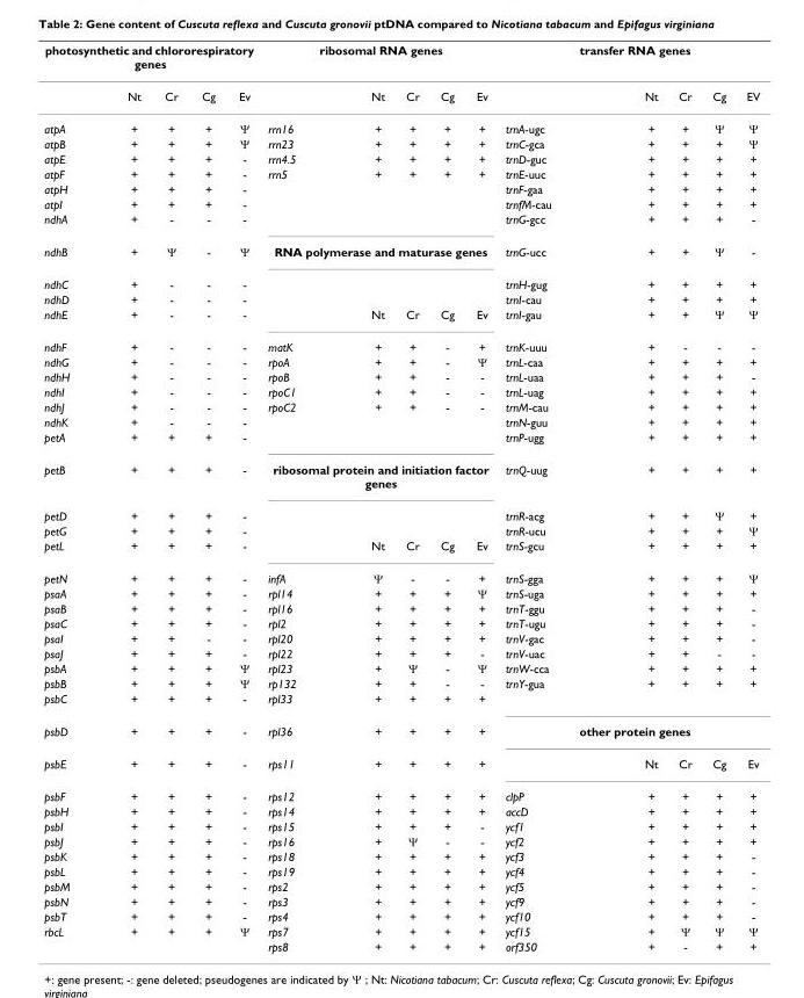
<table><thead><tr><td colspan="5">photosynthetic and chlororespiratory genes</td><td colspan="5">ribosomal RNA genes</td><td colspan="5">transfer RNA genes</td></tr><tr><td></td><td>Nt</td><td>Cr</td><td>Cg</td><td>Ev</td><td></td><td>Nt</td><td>Cr</td><td>Cg</td><td>Ev</td><td></td><td>Nt</td><td>Cr</td><td>Cg</td><td>EV</td></tr></thead><tbody><tr><td>atpA</td><td>+</td><td>+</td><td>+</td><td>Ψ</td><td>rrn16</td><td>+</td><td>+</td><td>+</td><td>+</td><td>trnA-ugc</td><td>+</td><td>+</td><td>Ψ</td><td>Ψ</td></tr><tr><td>atpB</td><td>+</td><td>+</td><td>+</td><td>Ψ</td><td>rrn23</td><td>+</td><td>+</td><td>+</td><td>+</td><td>trnC-gca</td><td>+</td><td>+</td><td>+</td><td>Ψ</td></tr><tr><td>atpE</td><td>+</td><td>+</td><td>+</td><td>-</td><td>rrn4.5</td><td>+</td><td>+</td><td>+</td><td>+</td><td>trnD-guc</td><td>+</td><td>+</td><td>+</td><td>+</td></tr><tr><td>atpF</td><td>+</td><td>+</td><td>+</td><td>-</td><td>rrn5</td><td>+</td><td>+</td><td>+</td><td>+</td><td>trnE-uuc</td><td>+</td><td>+</td><td>+</td><td>+</td></tr><tr><td>atpH</td><td>+</td><td>+</td><td>+</td><td>-</td><td></td><td></td><td></td><td></td><td></td><td>trnF-gaa</td><td>+</td><td>+</td><td>+</td><td>+</td></tr><tr><td>atpI</td><td>+</td><td>+</td><td>+</td><td>-</td><td></td><td></td><td></td><td></td><td></td><td>trnfM-cau</td><td>+</td><td>+</td><td>+</td><td>+</td></tr><tr><td>ndhA</td><td>+</td><td>-</td><td>-</td><td>-</td><td></td><td></td><td></td><td></td><td></td><td>trnG-gcc</td><td>+</td><td>+</td><td>+</td><td>-</td></tr><tr><td>ndhB</td><td>+</td><td>Ψ</td><td>-</td><td>Ψ</td><td colspan="5">RNA polymerase and maturase genes</td><td>trnG-ucc</td><td>+</td><td>+</td><td>Ψ</td><td>-</td></tr><tr><td>ndhC</td><td>+</td><td>-</td><td>-</td><td>-</td><td></td><td></td><td></td><td></td><td></td><td>trnH-gug</td><td>+</td><td>+</td><td>+</td><td>+</td></tr><tr><td>ndhD</td><td>+</td><td>-</td><td>-</td><td>-</td><td></td><td></td><td></td><td></td><td></td><td>trnI-cau</td><td>+</td><td>+</td><td>+</td><td>+</td></tr><tr><td>ndhE</td><td>+</td><td>-</td><td>-</td><td>-</td><td></td><td>Nt</td><td>Cr</td><td>Cg</td><td>Ev</td><td>trnI-gau</td><td>+</td><td>+</td><td>Ψ</td><td>Ψ</td></tr><tr><td>ndhF</td><td>+</td><td>-</td><td>-</td><td>-</td><td>matK</td><td>+</td><td>+</td><td>-</td><td>+</td><td>trnK-uuu</td><td>+</td><td>-</td><td>-</td><td>-</td></tr><tr><td>ndhG</td><td>+</td><td>-</td><td>-</td><td>-</td><td>rpoA</td><td>+</td><td>+</td><td>-</td><td>Ψ</td><td>trnL-caa</td><td>+</td><td>+</td><td>+</td><td>+</td></tr><tr><td>ndhH</td><td>+</td><td>-</td><td>-</td><td>-</td><td>rpoB</td><td>+</td><td>+</td><td>-</td><td>-</td><td>trnL-uaa</td><td>+</td><td>+</td><td>+</td><td>-</td></tr><tr><td>ndhI</td><td>+</td><td>-</td><td>-</td><td>-</td><td>rpoC1</td><td>+</td><td>+</td><td>-</td><td>-</td><td>trnL-uag</td><td>+</td><td>+</td><td>+</td><td>+</td></tr><tr><td>ndhJ</td><td>+</td><td>-</td><td>-</td><td>-</td><td>rpoC2</td><td>+</td><td>+</td><td>-</td><td>-</td><td>trnM-cau</td><td>+</td><td>+</td><td>+</td><td>+</td></tr><tr><td>ndhK</td><td>+</td><td>-</td><td>-</td><td>-</td><td></td><td></td><td></td><td></td><td></td><td>trnN-guu</td><td>+</td><td>+</td><td>+</td><td>+</td></tr><tr><td>petA</td><td>+</td><td>+</td><td>+</td><td>-</td><td></td><td></td><td></td><td></td><td></td><td>trnP-ugg</td><td>+</td><td>+</td><td>+</td><td>+</td></tr><tr><td>petB</td><td>+</td><td>+</td><td>+</td><td>-</td><td colspan="5">ribosomal protein and initiation factor genes</td><td>trnQ-uug</td><td>+</td><td>+</td><td>+</td><td>+</td></tr><tr><td>petD</td><td>+</td><td>+</td><td>+</td><td>-</td><td></td><td></td><td></td><td></td><td></td><td>trnR-acg</td><td>+</td><td>+</td><td>Ψ</td><td>+</td></tr><tr><td>petG</td><td>+</td><td>+</td><td>+</td><td>-</td><td></td><td></td><td></td><td></td><td></td><td>trnR-ucu</td><td>+</td><td>+</td><td>+</td><td>Ψ</td></tr><tr><td>petL</td><td>+</td><td>+</td><td>+</td><td>-</td><td></td><td>Nt</td><td>Cr</td><td>Cg</td><td>Ev</td><td>trnS-gcu</td><td>+</td><td>+</td><td>+</td><td>+</td></tr><tr><td>petN</td><td>+</td><td>+</td><td>+</td><td>-</td><td>infA</td><td>Ψ</td><td>-</td><td>-</td><td>+</td><td>trnS-gga</td><td>+</td><td>+</td><td>+</td><td>Ψ</td></tr><tr><td>psaA</td><td>+</td><td>+</td><td>+</td><td>-</td><td>rpl14</td><td>+</td><td>+</td><td>+</td><td>Ψ</td><td>trnS-uga</td><td>+</td><td>+</td><td>+</td><td>+</td></tr><tr><td>psaB</td><td>+</td><td>+</td><td>+</td><td>-</td><td>rpl16</td><td>+</td><td>+</td><td>+</td><td>+</td><td>trnT-ggu</td><td>+</td><td>+</td><td>+</td><td>-</td></tr><tr><td>psaC</td><td>+</td><td>+</td><td>+</td><td>-</td><td>rpl2</td><td>+</td><td>+</td><td>+</td><td>+</td><td>trnT-ugu</td><td>+</td><td>+</td><td>+</td><td>-</td></tr><tr><td>psaI</td><td>+</td><td>+</td><td>-</td><td>-</td><td>rpl20</td><td>+</td><td>+</td><td>+</td><td>+</td><td>trnV-gac</td><td>+</td><td>+</td><td>+</td><td>-</td></tr><tr><td>psaJ</td><td>+</td><td>+</td><td>+</td><td>-</td><td>rpl22</td><td>+</td><td>+</td><td>+</td><td>-</td><td>trnV-uac</td><td>+</td><td>+</td><td>-</td><td>-</td></tr><tr><td>psbA</td><td>+</td><td>+</td><td>+</td><td>Ψ</td><td>rpl23</td><td>+</td><td>Ψ</td><td>-</td><td>Ψ</td><td>trnW-cca</td><td>+</td><td>+</td><td>+</td><td>+</td></tr><tr><td>psbB</td><td>+</td><td>+</td><td>+</td><td>Ψ</td><td>rp132</td><td>+</td><td>+</td><td>-</td><td>-</td><td>trnY-gua</td><td>+</td><td>+</td><td>+</td><td>+</td></tr><tr><td>psbC</td><td>+</td><td>+</td><td>+</td><td>-</td><td>rpl33</td><td>+</td><td>+</td><td>+</td><td>+</td><td></td><td></td><td></td><td></td><td></td></tr><tr><td>psbD</td><td>+</td><td>+</td><td>+</td><td>-</td><td>rpl36</td><td>+</td><td>+</td><td>+</td><td>+</td><td colspan="5">other protein genes</td></tr><tr><td>psbE</td><td>+</td><td>+</td><td>+</td><td>-</td><td>rps11</td><td>+</td><td>+</td><td>+</td><td>+</td><td></td><td>Nt</td><td>Cr</td><td>Cg</td><td>Ev</td></tr><tr><td>psbF</td><td>+</td><td>+</td><td>+</td><td>-</td><td>rps12</td><td>+</td><td>+</td><td>+</td><td>+</td><td>clpP</td><td>+</td><td>+</td><td>+</td><td>+</td></tr><tr><td>psbH</td><td>+</td><td>+</td><td>+</td><td>-</td><td>rps14</td><td>+</td><td>+</td><td>+</td><td>+</td><td>accD</td><td>+</td><td>+</td><td>+</td><td>+</td></tr><tr><td>psbI</td><td>+</td><td>+</td><td>+</td><td>-</td><td>rps15</td><td>+</td><td>+</td><td>+</td><td>-</td><td>ycf1</td><td>+</td><td>+</td><td>+</td><td>+</td></tr><tr><td>psbJ</td><td>+</td><td>+</td><td>+</td><td>-</td><td>rps16</td><td>+</td><td>Ψ</td><td>-</td><td>-</td><td>ycf2</td><td>+</td><td>+</td><td>+</td><td>+</td></tr><tr><td>psbK</td><td>+</td><td>+</td><td>+</td><td>-</td><td>rps18</td><td>+</td><td>+</td><td>+</td><td>+</td><td>ycf3</td><td>+</td><td>+</td><td>+</td><td>-</td></tr><tr><td>psbL</td><td>+</td><td>+</td><td>+</td><td>-</td><td>rps19</td><td>+</td><td>+</td><td>+</td><td>+</td><td>ycf4</td><td>+</td><td>+</td><td>+</td><td>-</td></tr><tr><td>psbM</td><td>+</td><td>+</td><td>+</td><td>-</td><td>rps2</td><td>+</td><td>+</td><td>+</td><td>+</td><td>ycf5</td><td>+</td><td>+</td><td>+</td><td>-</td></tr><tr><td>psbN</td><td>+</td><td>+</td><td>+</td><td>-</td><td>rps3</td><td>+</td><td>+</td><td>+</td><td>+</td><td>ycf9</td><td>+</td><td>+</td><td>+</td><td>-</td></tr><tr><td>psbT</td><td>+</td><td>+</td><td>+</td><td>-</td><td>rps4</td><td>+</td><td>+</td><td>+</td><td>+</td><td>ycf10</td><td>+</td><td>+</td><td>+</td><td>-</td></tr><tr><td rowspan="2">rbcL</td><td>+</td><td>+</td><td>+</td><td>Ψ</td><td>rps7</td><td>+</td><td>+</td><td>+</td><td>+</td><td>ycf15</td><td>+</td><td>Ψ</td><td>Ψ</td><td>Ψ</td></tr><tr><td></td><td></td><td></td><td></td><td>rps8</td><td>+</td><td>+</td><td>+</td><td>+</td><td>orf350</td><td>+</td><td>-</td><td>+</td><td>+</td></tr></tbody></table>